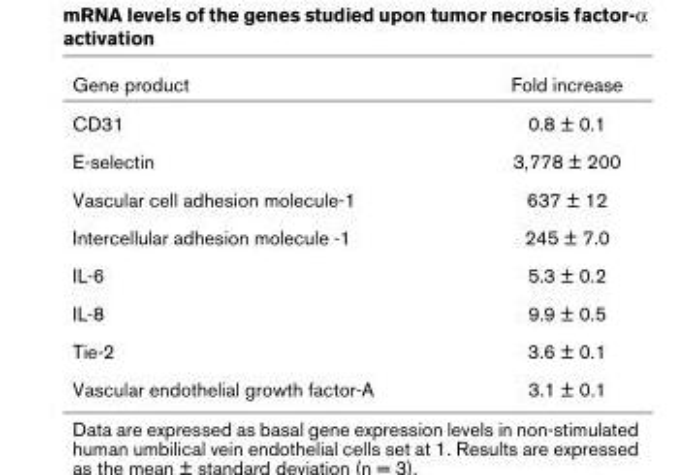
<table><thead><tr><td>Gene product</td><td>Fold increase</td></tr></thead><tbody><tr><td>CD31</td><td>0.8 ± 0.1</td></tr><tr><td>E-selectin</td><td>3,778 ± 200</td></tr><tr><td>Vascular cell adhesion molecule-1</td><td>637 ± 12</td></tr><tr><td>Intercellular adhesion molecule -1</td><td>245 ± 7.0</td></tr><tr><td>IL-6</td><td>5.3 ± 0.2</td></tr><tr><td>IL-8</td><td>9.9 ± 0.5</td></tr><tr><td>Tie-2</td><td>3.6 ± 0.1</td></tr><tr><td>Vascular endothelial growth factor-A</td><td>3.1 ± 0.1</td></tr></tbody></table>